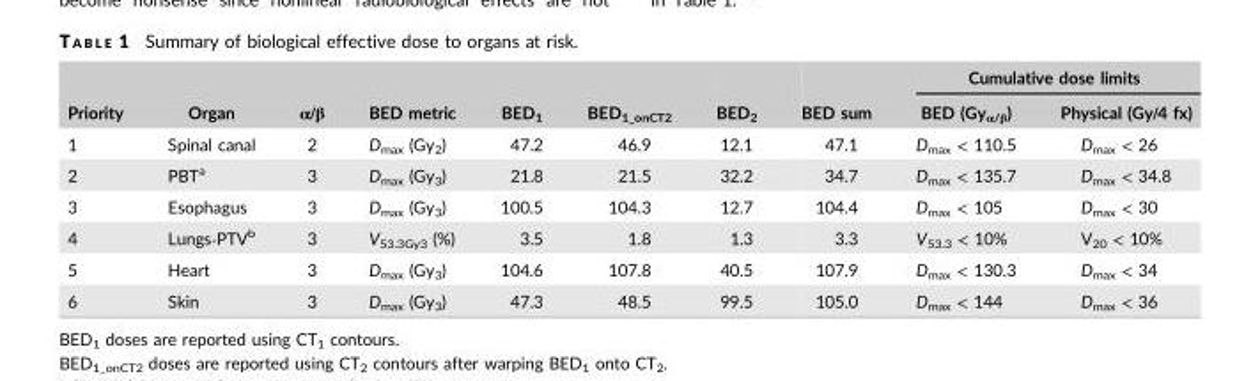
<table><thead><tr><td rowspan="2">Priority</td><td rowspan="2">Organ</td><td rowspan="2">α/β</td><td rowspan="2">BED metric</td><td rowspan="2">BED<sub>1</sub></td><td rowspan="2">BED<sub>1_onCT2</sub></td><td rowspan="2">BED<sub>2</sub></td><td rowspan="2">BED sum</td><td colspan="2">Cumulative dose limits</td></tr><tr><td>BED (Gy<sub>α/β</sub>)</td><td>Physical (Gy/4 fx)</td></tr></thead><tbody><tr><td>1</td><td>Spinal canal</td><td>2</td><td>D<sub>max</sub> (Gy<sub>2</sub>)</td><td>47.2</td><td>46.9</td><td>12.1</td><td>47.1</td><td>D<sub>max</sub> &lt; 110.5</td><td>D<sub>max</sub> &lt; 26</td></tr><tr><td>2</td><td>PBT<sup>a</sup></td><td>3</td><td>D<sub>max</sub> (Gy<sub>3</sub>)</td><td>21.8</td><td>21.5</td><td>32.2</td><td>34.7</td><td>D<sub>max</sub> &lt; 135.7</td><td>D<sub>max</sub> &lt; 34.8</td></tr><tr><td>3</td><td>Esophagus</td><td>3</td><td>D<sub>max</sub> (Gy<sub>3</sub>)</td><td>100.5</td><td>104.3</td><td>12.7</td><td>104.4</td><td>D<sub>max</sub> &lt; 105</td><td>D<sub>max</sub> &lt; 30</td></tr><tr><td>4</td><td>Lungs‐PTV<sup>b</sup></td><td>3</td><td>V<sub>53.3Gy3</sub> (%)</td><td>3.5</td><td>1.8</td><td>1.3</td><td>3.3</td><td>V<sub>53.3</sub> &lt; 10%</td><td>V<sub>20</sub> &lt; 10%</td></tr><tr><td>5</td><td>Heart</td><td>3</td><td>D<sub>max</sub> (Gy<sub>3</sub>)</td><td>104.6</td><td>107.8</td><td>40.5</td><td>107.9</td><td>D<sub>max</sub> &lt; 130.3</td><td>D<sub>max</sub> &lt; 34</td></tr><tr><td>6</td><td>Skin</td><td>3</td><td>D<sub>max</sub> (Gy<sub>3</sub>)</td><td>47.3</td><td>48.5</td><td>99.5</td><td>105.0</td><td>D<sub>max</sub> &lt; 144</td><td>D<sub>max</sub> &lt; 36</td></tr></tbody></table>